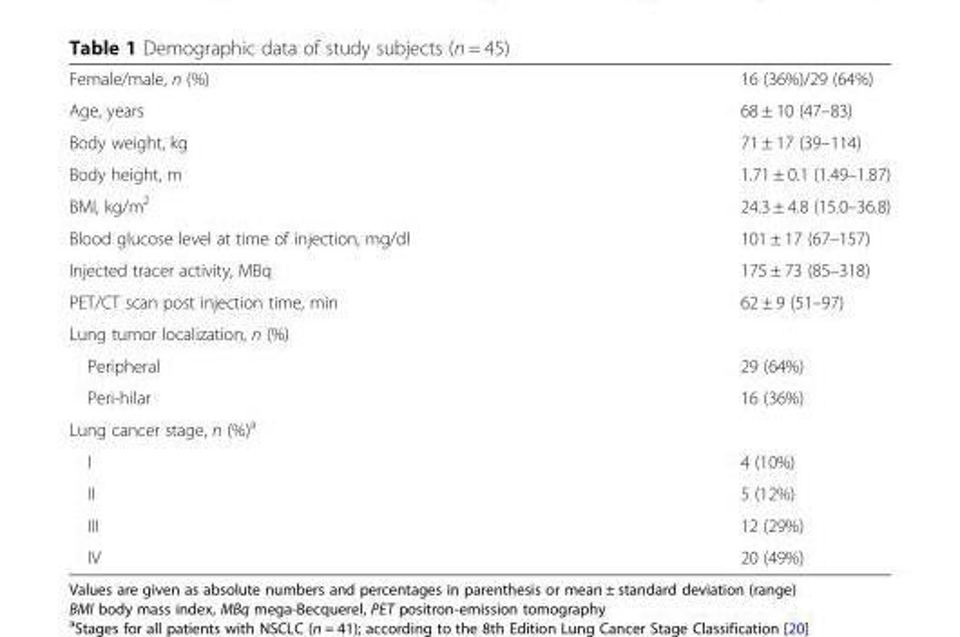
<table><tbody><tr><td>Female/male, n (%)</td><td>16 (36%)/29 (64%)</td></tr><tr><td>Age, years</td><td>68 ± 10 (47–83)</td></tr><tr><td>Body weight, kg</td><td>71 ± 17 (39–114)</td></tr><tr><td>Body height, m</td><td>1.71 ± 0.1 (1.49–1.87)</td></tr><tr><td>BMI, kg/m<sup>2</sup></td><td>24.3 ± 4.8 (15.0–36.8)</td></tr><tr><td>Blood glucose level at time of injection, mg/dl</td><td>101 ± 17 (67–157)</td></tr><tr><td>Injected tracer activity, MBq</td><td>175 ± 73 (85–318)</td></tr><tr><td>PET/CT scan post injection time, min</td><td>62 ± 9 (51–97)</td></tr><tr><td colspan="2">Lung tumor localization, n (%)</td></tr><tr><td>Peripheral</td><td>29 (64%)</td></tr><tr><td>Peri-hilar</td><td>16 (36%)</td></tr><tr><td colspan="2">Lung cancer stage, n (%)<sup>a</sup></td></tr><tr><td>I</td><td>4 (10%)</td></tr><tr><td>II</td><td>5 (12%)</td></tr><tr><td>III</td><td>12 (29%)</td></tr><tr><td>IV</td><td>20 (49%)</td></tr></tbody></table>